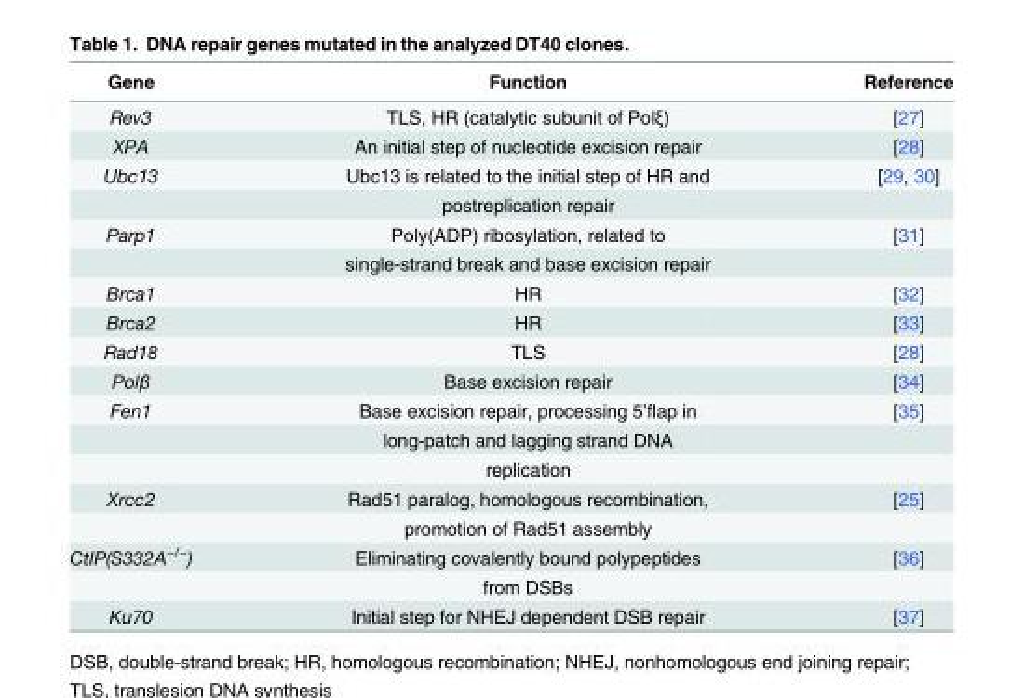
<table><thead><tr><td>Gene</td><td>Function</td><td>Reference</td></tr></thead><tbody><tr><td>Rev3</td><td>TLS, HR (catalytic subunit of Polξ)</td><td>[27]</td></tr><tr><td>XPA</td><td>An initial step of nucleotide excision repair</td><td>[28]</td></tr><tr><td rowspan="2">Ubc13</td><td>Ubc13 is related to the initial step of HR and</td><td>[29, 30]</td></tr><tr><td>postreplication repair</td><td></td></tr><tr><td rowspan="2">Parp1</td><td>Poly(ADP) ribosylation, related to</td><td>[31]</td></tr><tr><td>single-strand break and base excision repair</td><td></td></tr><tr><td>Brca1</td><td>HR</td><td>[32]</td></tr><tr><td>Brca2</td><td>HR</td><td>[33]</td></tr><tr><td>Rad18</td><td>TLS</td><td>[28]</td></tr><tr><td>Polβ</td><td>Base excision repair</td><td>[34]</td></tr><tr><td rowspan="3">Fen1</td><td>Base excision repair, processing 5’flap in</td><td>[35]</td></tr><tr><td>long-patch and lagging strand DNA</td><td></td></tr><tr><td>replication</td><td></td></tr><tr><td rowspan="2">Xrcc2</td><td>Rad51 paralog, homologous recombination,</td><td>[25]</td></tr><tr><td>promotion of Rad51 assembly</td><td></td></tr><tr><td rowspan="2">CtIP(S332A<sup>−/−</sup>)</td><td>Eliminating covalently bound polypeptides</td><td>[36]</td></tr><tr><td>from DSBs</td><td></td></tr><tr><td>Ku70</td><td>Initial step for NHEJ dependent DSB repair</td><td>[37]</td></tr></tbody></table>